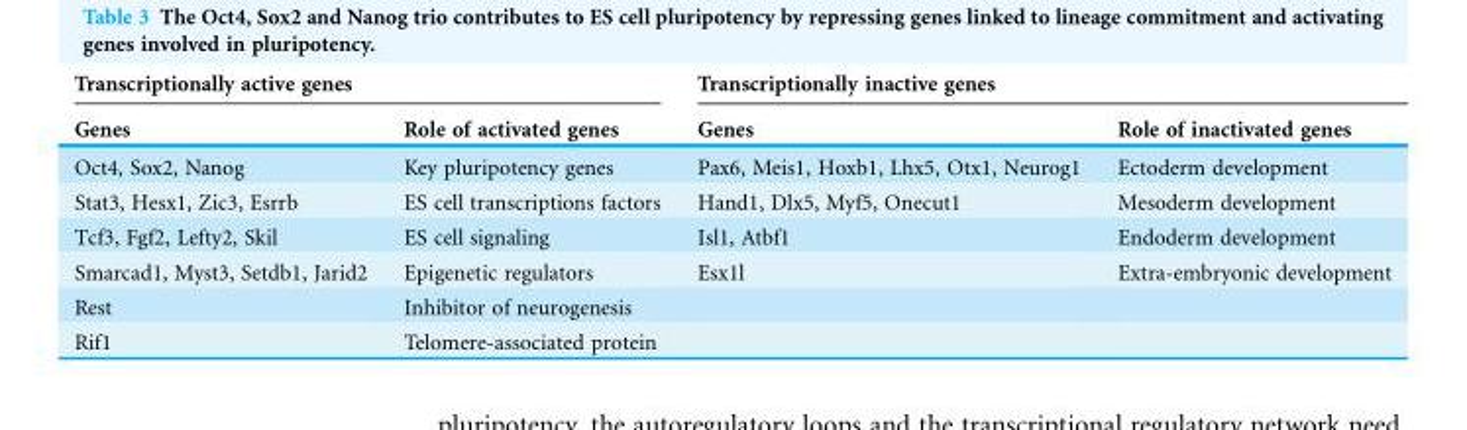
<table><thead><tr><td colspan="2">Transcriptionally active genes</td><td colspan="2">Transcriptionally inactive genes</td></tr><tr><td>Genes</td><td>Role of activated genes</td><td>Genes</td><td>Role of inactivated genes</td></tr></thead><tbody><tr><td>Oct4, Sox2, Nanog</td><td>Key pluripotency genes</td><td>Pax6, Meis1, Hoxb1, Lhx5, Otx1, Neurog1</td><td>Ectoderm development</td></tr><tr><td>Stat3, Hesx1, Zic3, Esrrb</td><td>ES cell transcriptions factors</td><td>Hand1, Dlx5, Myf5, Onecut1</td><td>Mesoderm development</td></tr><tr><td>Tcf3, Fgf2, Lefty2, Skil</td><td>ES cell signaling</td><td>Isl1, Atbf1</td><td>Endoderm development</td></tr><tr><td>Smarcad1, Myst3, Setdb1, Jarid2</td><td>Epigenetic regulators</td><td>Esx1l</td><td>Extra-embryonic development</td></tr><tr><td>Rest</td><td>Inhibitor of neurogenesis</td><td></td><td></td></tr><tr><td>Rif1</td><td>Telomere-associated protein</td><td></td><td></td></tr></tbody></table>